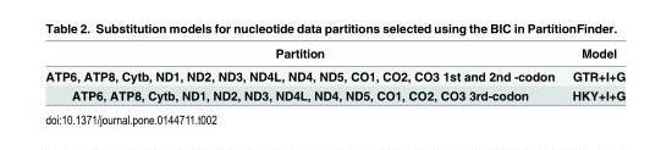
<table><thead><tr><td>Partition</td><td>Model</td></tr></thead><tbody><tr><td>ATP6, ATP8, Cytb, ND1, ND2, ND3, ND4L, ND4, ND5, CO1, CO2, CO3 1st and 2nd -codon</td><td>GTR+I+G</td></tr><tr><td>ATP6, ATP8, Cytb, ND1, ND2, ND3, ND4L, ND4, ND5, CO1, CO2, CO3 3rd-codon</td><td>HKY+I+G</td></tr></tbody></table>